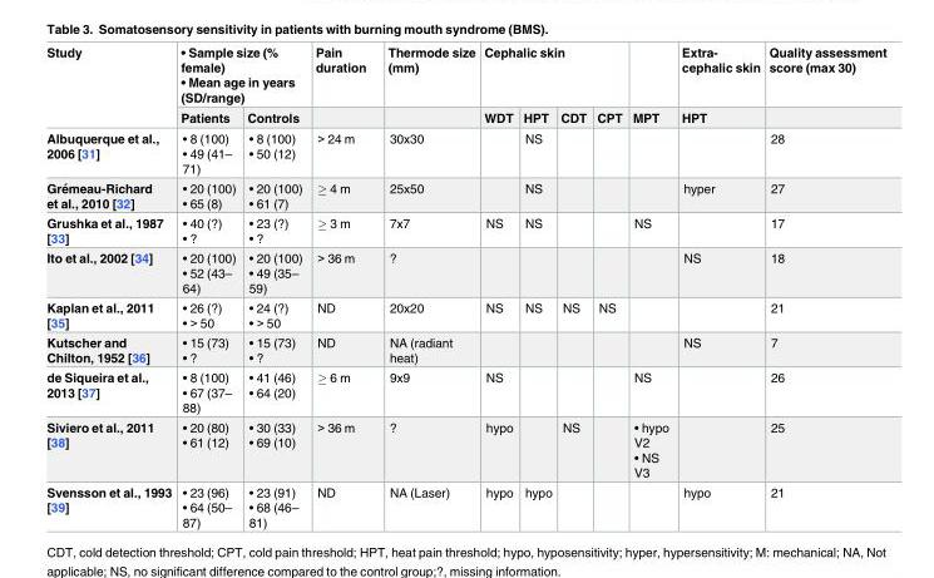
<table><thead><tr><td rowspan="2">Study</td><td colspan="2">• Sample size (% female) • Mean age in years (SD/range)</td><td rowspan="2">Pain duration</td><td rowspan="2">Thermode size (mm)</td><td colspan="4">Cephalic skin</td><td rowspan="2">MPT</td><td rowspan="2">Extra- cephalic skin HPT</td><td rowspan="2">Quality assessment score (max 30)</td></tr><tr><td>Patients</td><td>Controls</td><td>WDT</td><td>HPT</td><td>CDT</td><td>CPT</td></tr></thead><tbody><tr><td>Albuquerque et al., 2006 [31]</td><td>• 8 (100) • 49 (41– 71)</td><td>• 8 (100) • 50 (12)</td><td>&gt; 24 m</td><td>30x30</td><td></td><td>NS</td><td></td><td></td><td></td><td></td><td>28</td></tr><tr><td>Gre´meau-Richard et al., 2010 [32]</td><td>• 20 (100) • 65 (8)</td><td>• 20 (100) • 61 (7)</td><td>≥ 4 m</td><td>25x50</td><td></td><td>NS</td><td></td><td></td><td></td><td>hyper</td><td>27</td></tr><tr><td>Grushka et al., 1987 [33]</td><td>• 40 (?) • ?</td><td>• 23 (?) • ?</td><td>≥ 3 m</td><td>7x7</td><td>NS</td><td>NS</td><td></td><td></td><td>NS</td><td></td><td>17</td></tr><tr><td>Ito et al., 2002 [34]</td><td>• 20 (100) • 52 (43– 64)</td><td>• 20 (100) • 49 (35– 59)</td><td>&gt; 36 m</td><td>?</td><td></td><td></td><td></td><td></td><td></td><td>NS</td><td>18</td></tr><tr><td>Kaplan et al., 2011 [35]</td><td>• 26 (?) • &gt; 50</td><td>• 24 (?) • &gt; 50</td><td>ND</td><td>20x20</td><td>NS</td><td>NS</td><td>NS</td><td>NS</td><td></td><td></td><td>21</td></tr><tr><td>Kutscher and Chilton, 1952 [36]</td><td>• 15 (73) • ?</td><td>• 15 (73) • ?</td><td>ND</td><td>NA (radiant heat)</td><td></td><td></td><td></td><td></td><td></td><td>NS</td><td>7</td></tr><tr><td>de Siqueira et al., 2013 [37]</td><td>• 8 (100) • 67 (37– 88)</td><td>• 41 (46) • 64 (20)</td><td>≥ 6 m</td><td>9x9</td><td>NS</td><td></td><td></td><td></td><td>NS</td><td></td><td>26</td></tr><tr><td>Siviero et al., 2011 [38]</td><td>• 20 (80) • 61 (12)</td><td>• 30 (33) • 69 (10)</td><td>&gt; 36 m</td><td>?</td><td>hypo</td><td></td><td>NS</td><td></td><td>• hypo V2 • NS V3</td><td></td><td>25</td></tr><tr><td>Svensson et al., 1993 [39]</td><td>• 23 (96) • 64 (50– 87)</td><td>• 23 (91) • 68 (46– 81)</td><td>ND</td><td>NA (Laser)</td><td>hypo</td><td>hypo</td><td></td><td></td><td></td><td>hypo</td><td>21</td></tr></tbody></table>